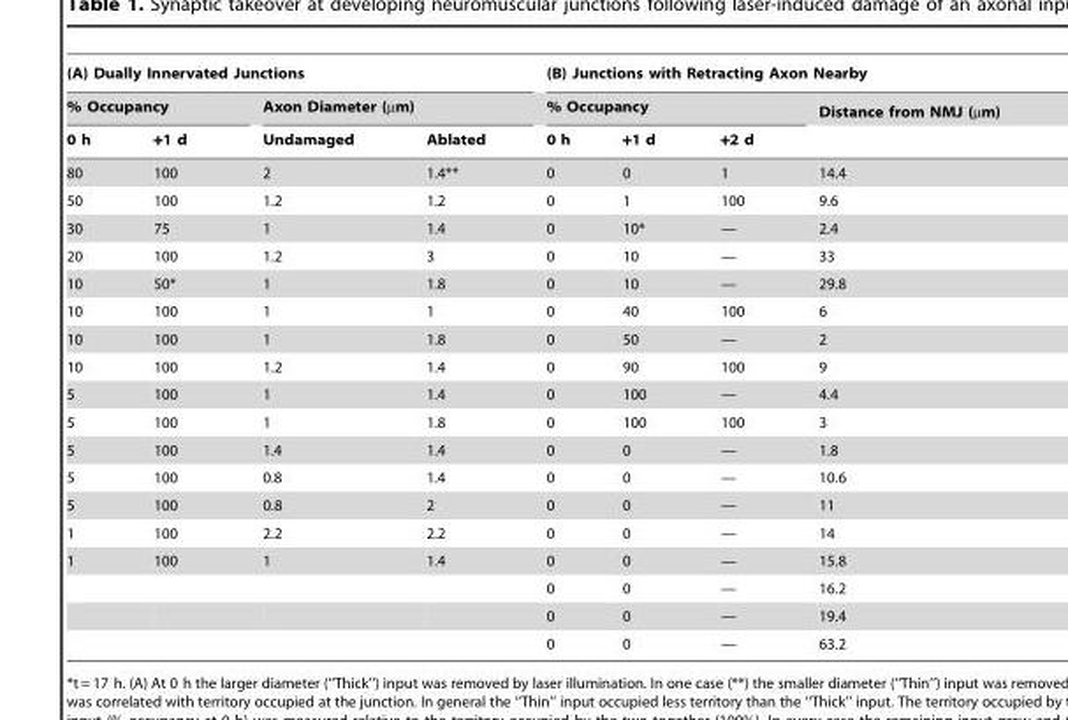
<table><thead><tr><td colspan="4">(A) Dually Innervated Junctions</td><td colspan="4">(B) Junctions with Retracting Axon Nearby</td></tr><tr><td colspan="2">% Occupancy</td><td colspan="2">Axon Diameter (µm)</td><td colspan="3">% Occupancy</td><td rowspan="2">Distance from NMJ (µm)</td></tr><tr><td>0 h</td><td>+1 d</td><td>Undamaged</td><td>Ablated</td><td>0 h</td><td>+1 d</td><td>+2 d</td></tr></thead><tbody><tr><td>80</td><td>100</td><td>2</td><td>1.4**</td><td>0</td><td>0</td><td>1</td><td>14.4</td></tr><tr><td>50</td><td>100</td><td>1.2</td><td>1.2</td><td>0</td><td>1</td><td>100</td><td>9.6</td></tr><tr><td>30</td><td>75</td><td>1</td><td>1.4</td><td>0</td><td>10*</td><td>—</td><td>2.4</td></tr><tr><td>20</td><td>100</td><td>1.2</td><td>3</td><td>0</td><td>10</td><td>—</td><td>33</td></tr><tr><td>10</td><td>50*</td><td>1</td><td>1.8</td><td>0</td><td>10</td><td>—</td><td>29.8</td></tr><tr><td>10</td><td>100</td><td>1</td><td>1</td><td>0</td><td>40</td><td>100</td><td>6</td></tr><tr><td>10</td><td>100</td><td>1</td><td>1.8</td><td>0</td><td>50</td><td>—</td><td>2</td></tr><tr><td>10</td><td>100</td><td>1.2</td><td>1.4</td><td>0</td><td>90</td><td>100</td><td>9</td></tr><tr><td>5</td><td>100</td><td>1</td><td>1.4</td><td>0</td><td>100</td><td>—</td><td>4.4</td></tr><tr><td>5</td><td>100</td><td>1</td><td>1.8</td><td>0</td><td>100</td><td>100</td><td>3</td></tr><tr><td>5</td><td>100</td><td>1.4</td><td>1.4</td><td>0</td><td>0</td><td>—</td><td>1.8</td></tr><tr><td>5</td><td>100</td><td>0.8</td><td>1.4</td><td>0</td><td>0</td><td>—</td><td>10.6</td></tr><tr><td>5</td><td>100</td><td>0.8</td><td>2</td><td>0</td><td>0</td><td>—</td><td>11</td></tr><tr><td>1</td><td>100</td><td>2.2</td><td>2.2</td><td>0</td><td>0</td><td>—</td><td>14</td></tr><tr><td rowspan="4">1</td><td>100</td><td>1</td><td>1.4</td><td>0</td><td>0</td><td>—</td><td>15.8</td></tr><tr><td></td><td></td><td></td><td>0</td><td>0</td><td>—</td><td>16.2</td></tr><tr><td></td><td></td><td></td><td>0</td><td>0</td><td>—</td><td>19.4</td></tr><tr><td></td><td></td><td></td><td>0</td><td>0</td><td>—</td><td>63.2</td></tr></tbody></table>